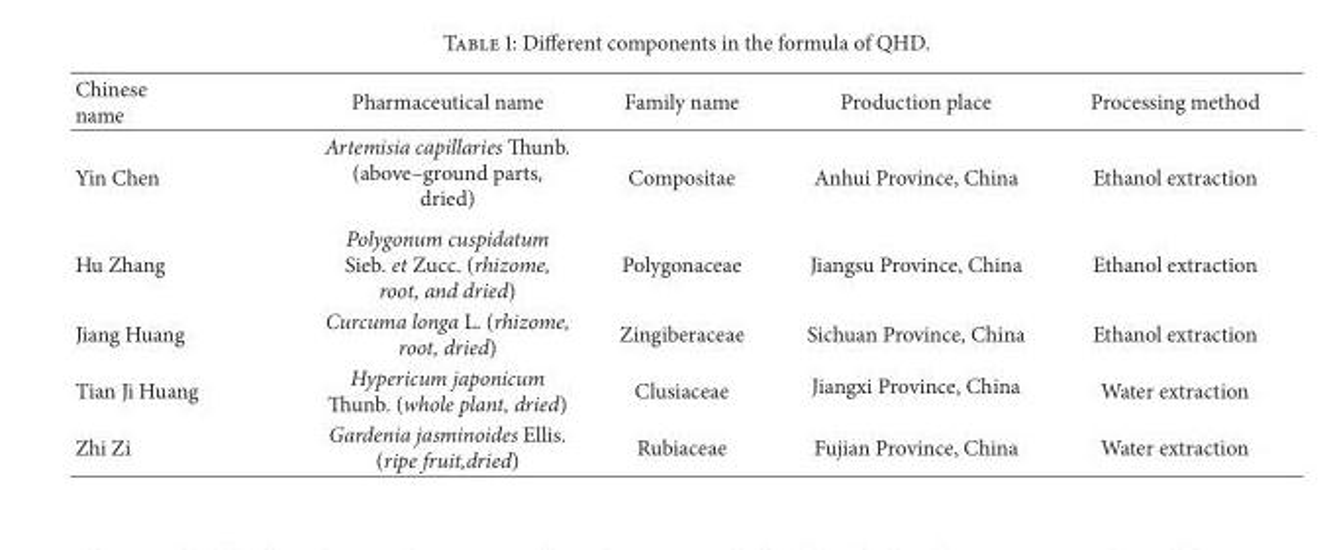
<table><thead><tr><td>Chinese name</td><td>Pharmaceutical name</td><td>Family name</td><td>Production place</td><td>Processing method</td></tr></thead><tbody><tr><td>Yin Chen</td><td>Artemisia capillaries Thunb. (above–ground parts, dried)</td><td>Compositae</td><td>Anhui Province, China</td><td>Ethanol extraction</td></tr><tr><td>Hu Zhang</td><td>Polygonum cuspidatum Sieb. et Zucc. (rhizome, root, and dried)</td><td>Polygonaceae</td><td>Jiangsu Province, China</td><td>Ethanol extraction</td></tr><tr><td>Jiang Huang</td><td>Curcuma longa L. (rhizome, root, dried)</td><td>Zingiberaceae</td><td>Sichuan Province, China</td><td>Ethanol extraction</td></tr><tr><td>Tian Ji Huang</td><td>Hypericum japonicum Thunb. (whole plant, dried)</td><td>Clusiaceae</td><td>Jiangxi Province, China</td><td>Water extraction</td></tr><tr><td>Zhi Zi</td><td>Gardenia jasminoides Ellis. (ripe fruit,dried)</td><td>Rubiaceae</td><td>Fujian Province, China</td><td>Water extraction</td></tr></tbody></table>